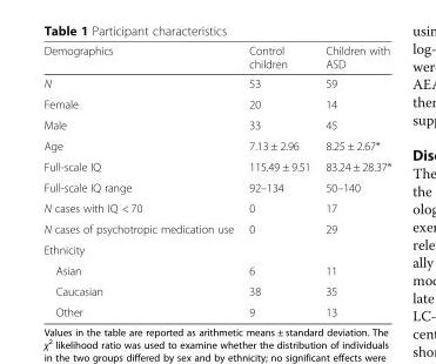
<table><thead><tr><td>Demographics</td><td>Control children</td><td>Children with ASD</td></tr></thead><tbody><tr><td>N</td><td>53</td><td>59</td></tr><tr><td>Female</td><td>20</td><td>14</td></tr><tr><td>Male</td><td>33</td><td>45</td></tr><tr><td>Age</td><td>7.13 ± 2.96</td><td>8.25 ± 2.67*</td></tr><tr><td>Full-scale IQ</td><td>115.49 ± 9.51</td><td>83.24 ± 28.37*</td></tr><tr><td>Full-scale IQ range</td><td>92–134</td><td>50–140</td></tr><tr><td>N cases with IQ &lt; 70</td><td>0</td><td>17</td></tr><tr><td>N cases of psychotropic medication use</td><td>0</td><td>29</td></tr><tr><td colspan="3">Ethnicity</td></tr><tr><td>Asian</td><td>6</td><td>11</td></tr><tr><td>Caucasian</td><td>38</td><td>35</td></tr><tr><td>Other</td><td>9</td><td>13</td></tr></tbody></table>